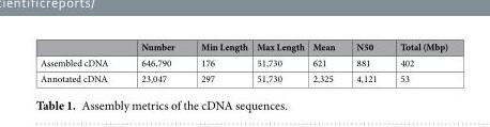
<table><thead><tr><td></td><td>Number</td><td>Min Length</td><td>Max Length</td><td>Mean</td><td>N50</td><td>Total (Mbp)</td></tr></thead><tbody><tr><td>Assembled cDNA</td><td>646,790</td><td>176</td><td>51,730</td><td>621</td><td>881</td><td>402</td></tr><tr><td>Annotated cDNA</td><td>23,047</td><td>297</td><td>51,730</td><td>2,325</td><td>4,121</td><td>53</td></tr></tbody></table>